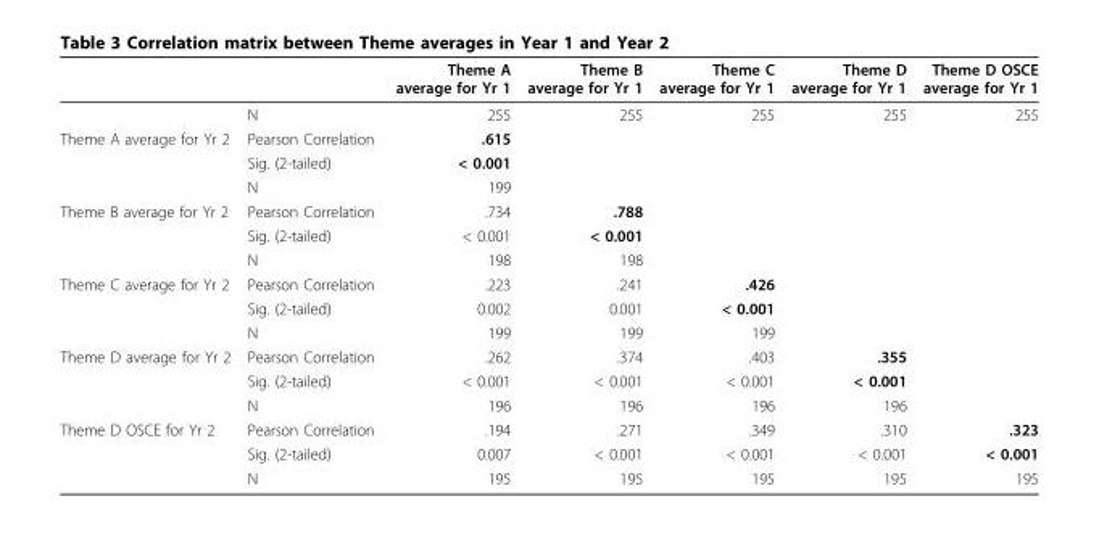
<table><thead><tr><td></td><td></td><td>Theme A average for Yr 1</td><td>Theme B average for Yr 1</td><td>Theme C average for Yr 1</td><td>Theme D average for Yr 1</td><td>Theme D OSCE average for Yr 1</td></tr></thead><tbody><tr><td></td><td>N</td><td>255</td><td>255</td><td>255</td><td>255</td><td>255</td></tr><tr><td rowspan="3">Theme A average for Yr 2</td><td>Pearson Correlation</td><td>.615</td><td></td><td></td><td></td><td></td></tr><tr><td>Sig. (2-tailed)</td><td>&lt; 0.001</td><td></td><td></td><td></td><td></td></tr><tr><td>N</td><td>199</td><td></td><td></td><td></td><td></td></tr><tr><td rowspan="3">Theme B average for Yr 2</td><td>Pearson Correlation</td><td>.734</td><td>.788</td><td></td><td></td><td></td></tr><tr><td>Sig. (2-tailed)</td><td>&lt; 0.001</td><td>&lt; 0.001</td><td></td><td></td><td></td></tr><tr><td>N</td><td>198</td><td>198</td><td></td><td></td><td></td></tr><tr><td rowspan="3">Theme C average for Yr 2</td><td>Pearson Correlation</td><td>.223</td><td>.241</td><td>.426</td><td></td><td></td></tr><tr><td>Sig. (2-tailed)</td><td>0.002</td><td>0.001</td><td>&lt; 0.001</td><td></td><td></td></tr><tr><td>N</td><td>199</td><td>199</td><td>199</td><td></td><td></td></tr><tr><td rowspan="3">Theme D average for Yr 2</td><td>Pearson Correlation</td><td>.262</td><td>.374</td><td>.403</td><td>.355</td><td></td></tr><tr><td>Sig. (2-tailed)</td><td>&lt; 0.001</td><td>&lt; 0.001</td><td>&lt; 0.001</td><td>&lt; 0.001</td><td></td></tr><tr><td>N</td><td>196</td><td>196</td><td>196</td><td>196</td><td></td></tr><tr><td rowspan="3">Theme D OSCE for Yr 2</td><td>Pearson Correlation</td><td>.194</td><td>.271</td><td>.349</td><td>.310</td><td>.323</td></tr><tr><td>Sig. (2-tailed)</td><td>0.007</td><td>&lt; 0.001</td><td>&lt; 0.001</td><td>&lt; 0.001</td><td>&lt; 0.001</td></tr><tr><td>N</td><td>195</td><td>195</td><td>195</td><td>195</td><td>195</td></tr></tbody></table>